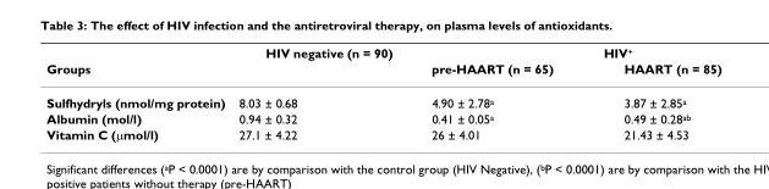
<table><thead><tr><td rowspan="2">Groups</td><td rowspan="2">HIV negative (n = 90)</td><td colspan="2">HIV<sup>+</sup></td></tr><tr><td>pre-HAART (n = 65)</td><td>HAART (n = 85)</td></tr></thead><tbody><tr><td>Sulfhydryls (nmol/mg protein)</td><td>8.03 ± 0.68</td><td>4.90 ± 2.78<sup>a</sup></td><td>3.87 ± 2.85<sup>a</sup></td></tr><tr><td>Albumin (mol/l)</td><td>0.94 ± 0.32</td><td>0.41 ± 0.05<sup>a</sup></td><td>0.49 ± 0.28<sup>ab</sup></td></tr><tr><td>Vitamin C (μmol/l)</td><td>27.1 ± 4.22</td><td>26 ± 4.01</td><td>21.43 ± 4.53</td></tr></tbody></table>